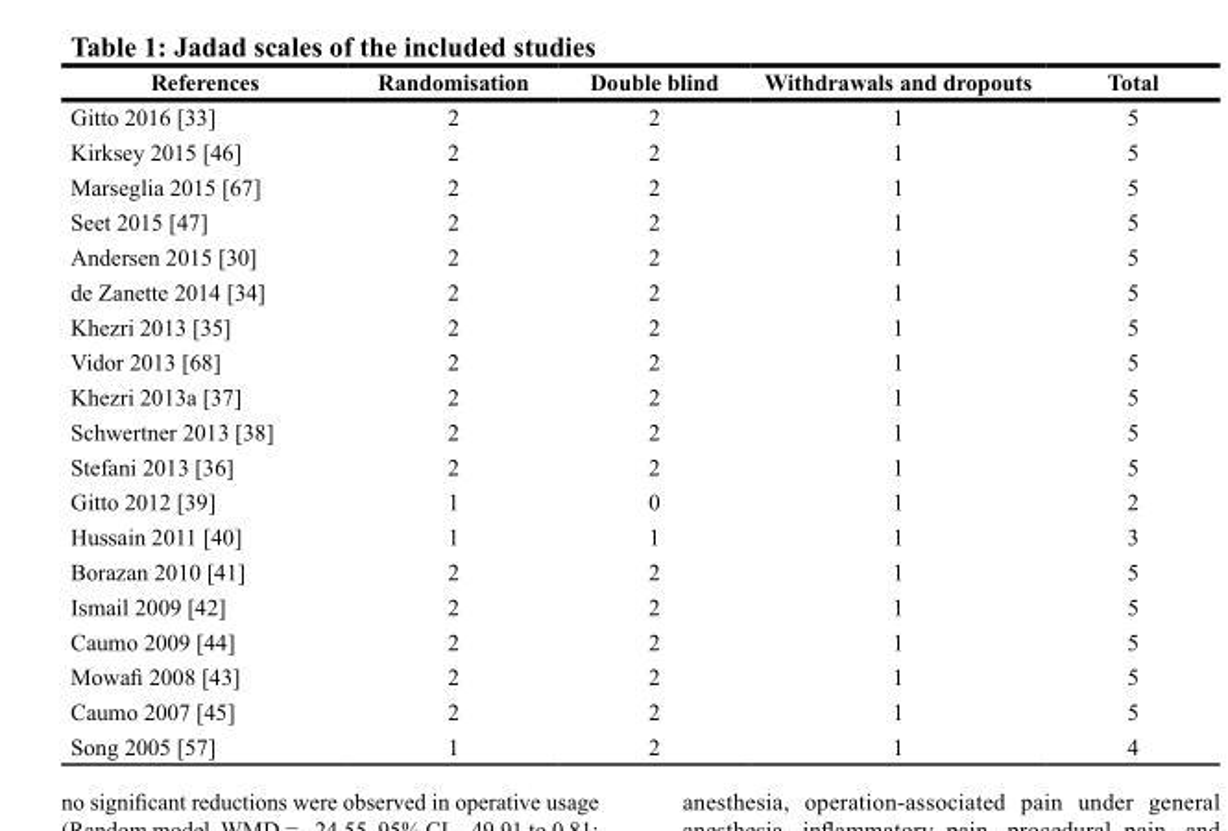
<table><thead><tr><td>References</td><td>Randomisation</td><td>Double blind</td><td>Withdrawals and dropouts</td><td>Total</td></tr></thead><tbody><tr><td>Gitto 2016 [33]</td><td>2</td><td>2</td><td>1</td><td>5</td></tr><tr><td>Kirksey 2015 [46]</td><td>2</td><td>2</td><td>1</td><td>5</td></tr><tr><td>Marseglia 2015 [67]</td><td>2</td><td>2</td><td>1</td><td>5</td></tr><tr><td>Seet 2015 [47]</td><td>2</td><td>2</td><td>1</td><td>5</td></tr><tr><td>Andersen 2015 [30]</td><td>2</td><td>2</td><td>1</td><td>5</td></tr><tr><td>de Zanette 2014 [34]</td><td>2</td><td>2</td><td>1</td><td>5</td></tr><tr><td>Khezri 2013 [35]</td><td>2</td><td>2</td><td>1</td><td>5</td></tr><tr><td>Vidor 2013 [68]</td><td>2</td><td>2</td><td>1</td><td>5</td></tr><tr><td>Khezri 2013a [37]</td><td>2</td><td>2</td><td>1</td><td>5</td></tr><tr><td>Schwertner 2013 [38]</td><td>2</td><td>2</td><td>1</td><td>5</td></tr><tr><td>Stefani 2013 [36]</td><td>2</td><td>2</td><td>1</td><td>5</td></tr><tr><td>Gitto 2012 [39]</td><td>1</td><td>0</td><td>1</td><td>2</td></tr><tr><td>Hussain 2011 [40]</td><td>1</td><td>1</td><td>1</td><td>3</td></tr><tr><td>Borazan 2010 [41]</td><td>2</td><td>2</td><td>1</td><td>5</td></tr><tr><td>Ismail 2009 [42]</td><td>2</td><td>2</td><td>1</td><td>5</td></tr><tr><td>Caumo 2009 [44]</td><td>2</td><td>2</td><td>1</td><td>5</td></tr><tr><td>Mowafi 2008 [43]</td><td>2</td><td>2</td><td>1</td><td>5</td></tr><tr><td>Caumo 2007 [45]</td><td>2</td><td>2</td><td>1</td><td>5</td></tr><tr><td>Song 2005 [57]</td><td>1</td><td>2</td><td>1</td><td>4</td></tr></tbody></table>